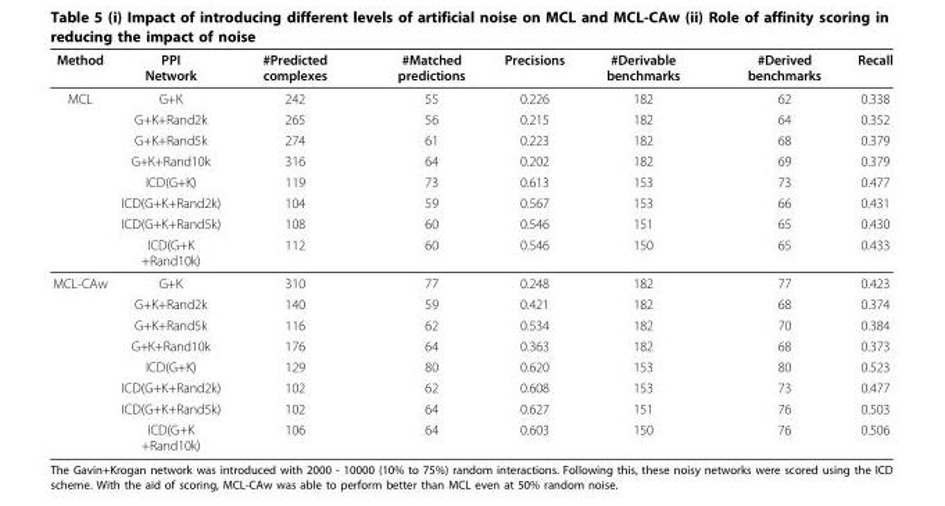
<table><thead><tr><td>Method</td><td>PPI Network</td><td>#Predicted complexes</td><td>#Matched predictions</td><td>Precisions</td><td>#Derivable benchmarks</td><td>#Derived benchmarks</td><td>Recall</td></tr></thead><tbody><tr><td rowspan="8">MCL</td><td>G+K</td><td>242</td><td>55</td><td>0.226</td><td>182</td><td>62</td><td>0.338</td></tr><tr><td>G+K+Rand2k</td><td>265</td><td>56</td><td>0.215</td><td>182</td><td>64</td><td>0.352</td></tr><tr><td>G+K+Rand5k</td><td>274</td><td>61</td><td>0.223</td><td>182</td><td>68</td><td>0.379</td></tr><tr><td>G+K+Rand10k</td><td>316</td><td>64</td><td>0.202</td><td>182</td><td>69</td><td>0.379</td></tr><tr><td>ICD(G+K)</td><td>119</td><td>73</td><td>0.613</td><td>153</td><td>73</td><td>0.477</td></tr><tr><td>ICD(G+K+Rand2k)</td><td>104</td><td>59</td><td>0.567</td><td>153</td><td>66</td><td>0.431</td></tr><tr><td>ICD(G+K+Rand5k)</td><td>108</td><td>60</td><td>0.546</td><td>151</td><td>65</td><td>0.430</td></tr><tr><td>ICD(G+K +Rand10k)</td><td>112</td><td>60</td><td>0.546</td><td>150</td><td>65</td><td>0.433</td></tr><tr><td rowspan="8">MCL-CAw</td><td>G+K</td><td>310</td><td>77</td><td>0.248</td><td>182</td><td>77</td><td>0.423</td></tr><tr><td>G+K+Rand2k</td><td>140</td><td>59</td><td>0.421</td><td>182</td><td>68</td><td>0.374</td></tr><tr><td>G+K+Rand5k</td><td>116</td><td>62</td><td>0.534</td><td>182</td><td>70</td><td>0.384</td></tr><tr><td>G+K+Rand10k</td><td>176</td><td>64</td><td>0.363</td><td>182</td><td>68</td><td>0.373</td></tr><tr><td>ICD(G+K)</td><td>129</td><td>80</td><td>0.620</td><td>153</td><td>80</td><td>0.523</td></tr><tr><td>ICD(G+K+Rand2k)</td><td>102</td><td>62</td><td>0.608</td><td>153</td><td>73</td><td>0.477</td></tr><tr><td>ICD(G+K+Rand5k)</td><td>102</td><td>64</td><td>0.627</td><td>151</td><td>76</td><td>0.503</td></tr><tr><td>ICD(G+K +Rand10k)</td><td>106</td><td>64</td><td>0.603</td><td>150</td><td>76</td><td>0.506</td></tr></tbody></table>